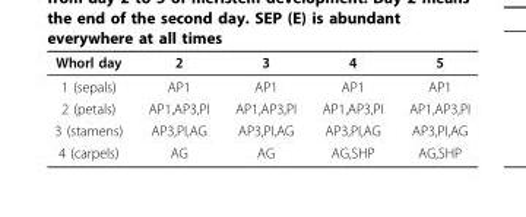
<table><thead><tr><td>Whorl day</td><td>2</td><td>3</td><td>4</td><td>5</td></tr></thead><tbody><tr><td>1 (sepals)</td><td>AP1</td><td>AP1</td><td>AP1</td><td>AP1</td></tr><tr><td>2 (petals)</td><td>AP1,AP3,PI</td><td>AP1,AP3,PI</td><td>AP1,AP3,PI</td><td>AP1,AP3,PI</td></tr><tr><td>3 (stamens)</td><td>AP3,PI,AG</td><td>AP3,PI,AG</td><td>AP3,PI,AG</td><td>AP3,PI,AG</td></tr><tr><td>4 (carpels)</td><td>AG</td><td>AG</td><td>AG,SHP</td><td>AG,SHP</td></tr></tbody></table>